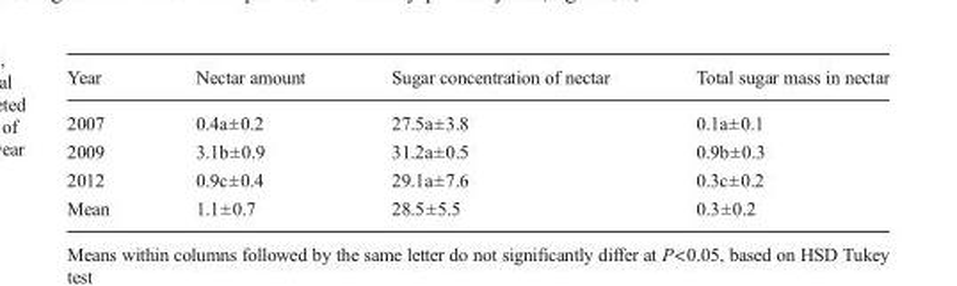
<table><thead><tr><td>Year</td><td>Nectar amount</td><td>Sugar concentration of nectar</td><td>Total sugar mass in nectar</td></tr></thead><tbody><tr><td>2007</td><td>0.4a±0.2</td><td>27.5a±3.8</td><td>0.1a±0.1</td></tr><tr><td>2009</td><td>3.1b±0.9</td><td>31.2a±0.5</td><td>0.9b±0.3</td></tr><tr><td>2012</td><td>0.9c±0.4</td><td>29.1a±7.6</td><td>0.3c±0.2</td></tr><tr><td>Mean</td><td>1.1±0.7</td><td>28.5±5.5</td><td>0.3±0.2</td></tr></tbody></table>